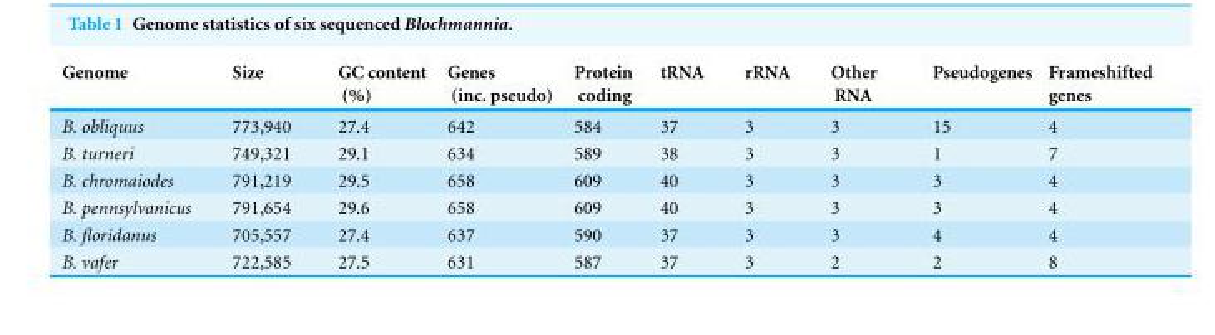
<table><thead><tr><td>Genome</td><td>Size</td><td>GC content (%)</td><td>Genes (inc. pseudo)</td><td>Protein coding</td><td>tRNA</td><td>rRNA</td><td>Other RNA</td><td>Pseudogenes</td><td>Frameshifted genes</td></tr></thead><tbody><tr><td>B. obliquus</td><td>773,940</td><td>27.4</td><td>642</td><td>584</td><td>37</td><td>3</td><td>3</td><td>15</td><td>4</td></tr><tr><td>B. turneri</td><td>749,321</td><td>29.1</td><td>634</td><td>589</td><td>38</td><td>3</td><td>3</td><td>1</td><td>7</td></tr><tr><td>B. chromaiodes</td><td>791,219</td><td>29.5</td><td>658</td><td>609</td><td>40</td><td>3</td><td>3</td><td>3</td><td>4</td></tr><tr><td>B. pennsylvanicus</td><td>791,654</td><td>29.6</td><td>658</td><td>609</td><td>40</td><td>3</td><td>3</td><td>3</td><td>4</td></tr><tr><td>B. floridanus</td><td>705,557</td><td>27.4</td><td>637</td><td>590</td><td>37</td><td>3</td><td>3</td><td>4</td><td>4</td></tr><tr><td>B. vafer</td><td>722,585</td><td>27.5</td><td>631</td><td>587</td><td>37</td><td>3</td><td>2</td><td>2</td><td>8</td></tr></tbody></table>